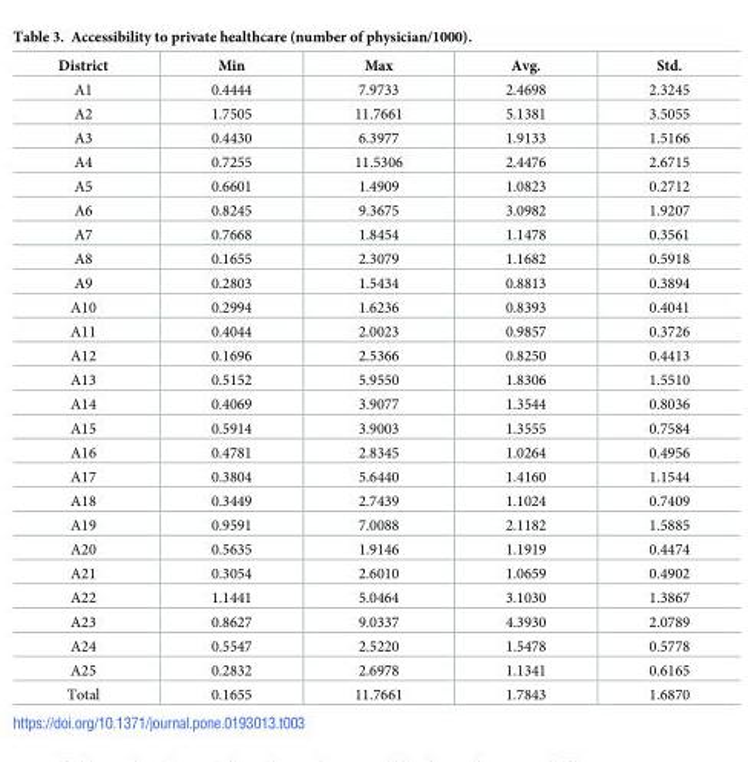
<table><thead><tr><td>District</td><td>Min</td><td>Max</td><td>Avg.</td><td>Std.</td></tr></thead><tbody><tr><td>A1</td><td>0.4444</td><td>7.9733</td><td>2.4698</td><td>2.3245</td></tr><tr><td>A2</td><td>1.7505</td><td>11.7661</td><td>5.1381</td><td>3.5055</td></tr><tr><td>A3</td><td>0.4430</td><td>6.3977</td><td>1.9133</td><td>1.5166</td></tr><tr><td>A4</td><td>0.7255</td><td>11.5306</td><td>2.4476</td><td>2.6715</td></tr><tr><td>A5</td><td>0.6601</td><td>1.4909</td><td>1.0823</td><td>0.2712</td></tr><tr><td>A6</td><td>0.8245</td><td>9.3675</td><td>3.0982</td><td>1.9207</td></tr><tr><td>A7</td><td>0.7668</td><td>1.8454</td><td>1.1478</td><td>0.3561</td></tr><tr><td>A8</td><td>0.1655</td><td>2.3079</td><td>1.1682</td><td>0.5918</td></tr><tr><td>A9</td><td>0.2803</td><td>1.5434</td><td>0.8813</td><td>0.3894</td></tr><tr><td>A10</td><td>0.2994</td><td>1.6236</td><td>0.8393</td><td>0.4041</td></tr><tr><td>A11</td><td>0.4044</td><td>2.0023</td><td>0.9857</td><td>0.3726</td></tr><tr><td>A12</td><td>0.1696</td><td>2.5366</td><td>0.8250</td><td>0.4413</td></tr><tr><td>A13</td><td>0.5152</td><td>5.9550</td><td>1.8306</td><td>1.5510</td></tr><tr><td>A14</td><td>0.4069</td><td>3.9077</td><td>1.3544</td><td>0.8036</td></tr><tr><td>A15</td><td>0.5914</td><td>3.9003</td><td>1.3555</td><td>0.7584</td></tr><tr><td>A16</td><td>0.4781</td><td>2.8345</td><td>1.0264</td><td>0.4956</td></tr><tr><td>A17</td><td>0.3804</td><td>5.6440</td><td>1.4160</td><td>1.1544</td></tr><tr><td>A18</td><td>0.3449</td><td>2.7439</td><td>1.1024</td><td>0.7409</td></tr><tr><td>A19</td><td>0.9591</td><td>7.0088</td><td>2.1182</td><td>1.5885</td></tr><tr><td>A20</td><td>0.5635</td><td>1.9146</td><td>1.1919</td><td>0.4474</td></tr><tr><td>A21</td><td>0.3054</td><td>2.6010</td><td>1.0659</td><td>0.4902</td></tr><tr><td>A22</td><td>1.1441</td><td>5.0464</td><td>3.1030</td><td>1.3867</td></tr><tr><td>A23</td><td>0.8627</td><td>9.0337</td><td>4.3930</td><td>2.0789</td></tr><tr><td>A24</td><td>0.5547</td><td>2.5220</td><td>1.5478</td><td>0.5778</td></tr><tr><td>A25</td><td>0.2832</td><td>2.6978</td><td>1.1341</td><td>0.6165</td></tr><tr><td>Total</td><td>0.1655</td><td>11.7661</td><td>1.7843</td><td>1.6870</td></tr></tbody></table>